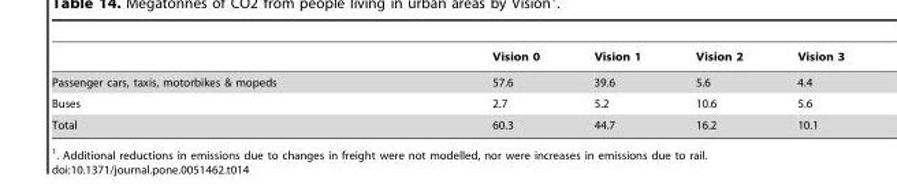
<table><thead><tr><td></td><td>Vision 0</td><td>Vision 1</td><td>Vision 2</td><td>Vision 3</td></tr></thead><tbody><tr><td>Passenger cars, taxis, motorbikes &amp; mopeds</td><td>57.6</td><td>39.6</td><td>5.6</td><td>4.4</td></tr><tr><td>Buses</td><td>2.7</td><td>5.2</td><td>10.6</td><td>5.6</td></tr><tr><td>Total</td><td>60.3</td><td>44.7</td><td>16.2</td><td>10.1</td></tr></tbody></table>